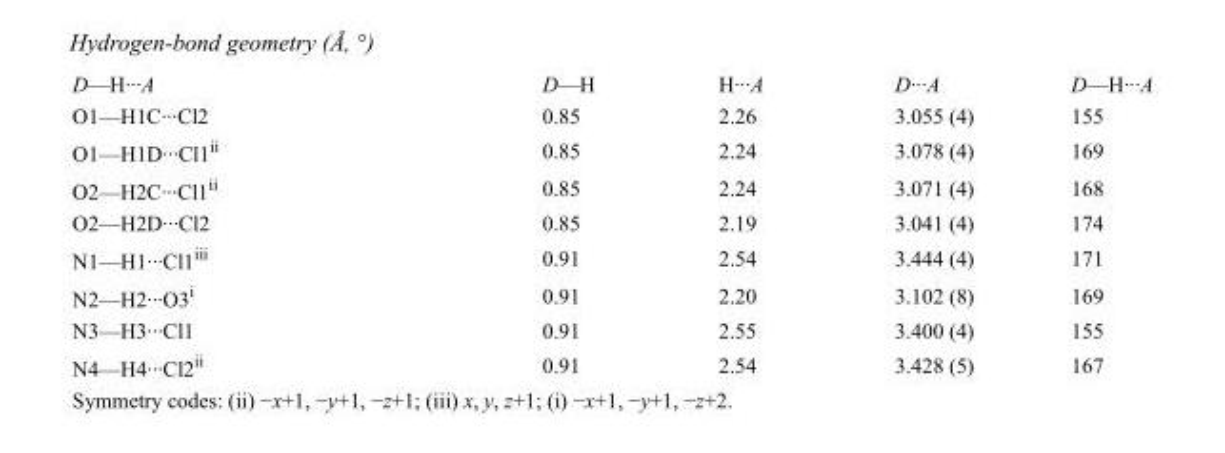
<table><tbody><tr><td>D—H···A</td><td>D—H</td><td>H···A</td><td>D···A</td><td>D—H···A</td></tr><tr><td>O1—H1C···Cl2</td><td>0.85</td><td>2.26</td><td>3.055 (4)</td><td>155</td></tr><tr><td>O1—H1D···Cl1<sup>ii</sup></td><td>0.85</td><td>2.24</td><td>3.078 (4)</td><td>169</td></tr><tr><td>O2—H2C···Cl1<sup>ii</sup></td><td>0.85</td><td>2.24</td><td>3.071 (4)</td><td>168</td></tr><tr><td>O2—H2D···Cl2</td><td>0.85</td><td>2.19</td><td>3.041 (4)</td><td>174</td></tr><tr><td>N1—H1···Cl1<sup>iii</sup></td><td>0.91</td><td>2.54</td><td>3.444 (4)</td><td>171</td></tr><tr><td>N2—H2···O3<sup>i</sup></td><td>0.91</td><td>2.20</td><td>3.102 (8)</td><td>169</td></tr><tr><td>N3—H3···Cl1</td><td>0.91</td><td>2.55</td><td>3.400 (4)</td><td>155</td></tr><tr><td>N4—H4···Cl2<sup>ii</sup></td><td>0.91</td><td>2.54</td><td>3.428 (5)</td><td>167</td></tr></tbody></table>